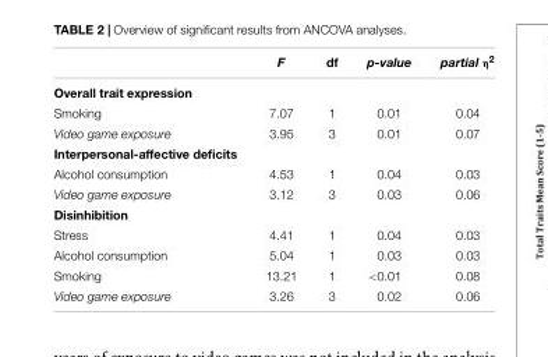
<table><thead><tr><td></td><td>F</td><td>df</td><td>p-value</td><td>partial η<sup>2</sup></td></tr></thead><tbody><tr><td colspan="5">Overall trait expression</td></tr><tr><td>Smoking</td><td>7.07</td><td>1</td><td>0.01</td><td>0.04</td></tr><tr><td>Video game exposure</td><td>3.95</td><td>3</td><td>0.01</td><td>0.07</td></tr><tr><td colspan="5">Interpersonal-affective deficits</td></tr><tr><td>Alcohol consumption</td><td>4.53</td><td>1</td><td>0.04</td><td>0.03</td></tr><tr><td>Video game exposure</td><td>3.12</td><td>3</td><td>0.03</td><td>0.06</td></tr><tr><td colspan="5">Disinhibition</td></tr><tr><td>Stress</td><td>4.41</td><td>1</td><td>0.04</td><td>0.03</td></tr><tr><td>Alcohol consumption</td><td>5.04</td><td>1</td><td>0.03</td><td>0.03</td></tr><tr><td>Smoking</td><td>13.21</td><td>1</td><td>&lt;0.01</td><td>0.08</td></tr><tr><td>Video game exposure</td><td>3.26</td><td>3</td><td>0.02</td><td>0.06</td></tr></tbody></table>